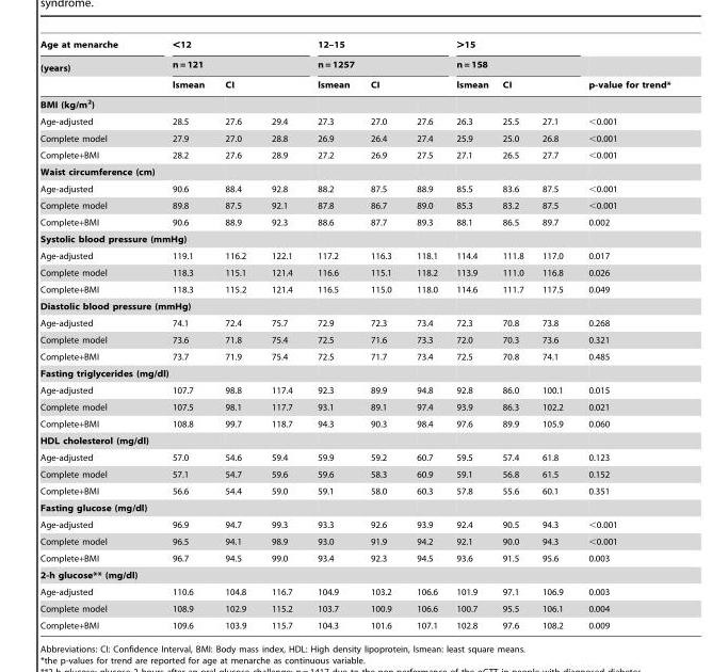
<table><thead><tr><td rowspan="3">Age at menarche (years)</td><td rowspan="2" colspan="3">&lt;12 n = 121</td><td rowspan="2" colspan="3">12–15 n = 1257</td><td rowspan="2" colspan="3">&gt;15 n = 158</td><td rowspan="4">p-value for trend*</td></tr><tr></tr><tr><td>lsmean</td><td colspan="2">CI</td><td rowspan="2">lsmean</td><td colspan="2">CI</td><td rowspan="2">lsmean</td><td colspan="2">CI</td></tr><tr><td colspan="2">BMI (kg/m<sup>2</sup>)</td><td></td><td></td><td></td><td></td><td></td><td></td></tr></thead><tbody><tr><td>Age-adjusted</td><td>28.5</td><td>27.6</td><td>29.4</td><td>27.3</td><td>27.0</td><td>27.6</td><td>26.3</td><td>25.5</td><td>27.1</td><td>&lt;0.001</td></tr><tr><td>Complete model</td><td>27.9</td><td>27.0</td><td>28.8</td><td>26.9</td><td>26.4</td><td>27.4</td><td>25.9</td><td>25.0</td><td>26.8</td><td>&lt;0.001</td></tr><tr><td>Complete+BMI</td><td>28.2</td><td>27.6</td><td>28.9</td><td>27.2</td><td>26.9</td><td>27.5</td><td>27.1</td><td>26.5</td><td>27.7</td><td>&lt;0.001</td></tr><tr><td colspan="11">Waist circumference (cm)</td></tr><tr><td>Age-adjusted</td><td>90.6</td><td>88.4</td><td>92.8</td><td>88.2</td><td>87.5</td><td>88.9</td><td>85.5</td><td>83.6</td><td>87.5</td><td>&lt;0.001</td></tr><tr><td>Complete model</td><td>89.8</td><td>87.5</td><td>92.1</td><td>87.8</td><td>86.7</td><td>89.0</td><td>85.3</td><td>83.2</td><td>87.5</td><td>&lt;0.001</td></tr><tr><td>Complete+BMI</td><td>90.6</td><td>88.9</td><td>92.3</td><td>88.6</td><td>87.7</td><td>89.3</td><td>88.1</td><td>86.5</td><td>89.7</td><td>0.002</td></tr><tr><td colspan="11">Systolic blood pressure (mmHg)</td></tr><tr><td>Age-adjusted</td><td>119.1</td><td>116.2</td><td>122.1</td><td>117.2</td><td>116.3</td><td>118.1</td><td>114.4</td><td>111.8</td><td>117.0</td><td>0.017</td></tr><tr><td>Complete model</td><td>118.3</td><td>115.1</td><td>121.4</td><td>116.6</td><td>115.1</td><td>118.2</td><td>113.9</td><td>111.0</td><td>116.8</td><td>0.026</td></tr><tr><td>Complete+BMI</td><td>118.3</td><td>115.2</td><td>121.4</td><td>116.5</td><td>115.0</td><td>118.0</td><td>114.6</td><td>111.7</td><td>117.5</td><td>0.049</td></tr><tr><td colspan="11">Diastolic blood pressure (mmHg)</td></tr><tr><td>Age-adjusted</td><td>74.1</td><td>72.4</td><td>75.7</td><td>72.9</td><td>72.3</td><td>73.4</td><td>72.3</td><td>70.8</td><td>73.8</td><td>0.268</td></tr><tr><td>Complete model</td><td>73.6</td><td>71.8</td><td>75.4</td><td>72.5</td><td>71.6</td><td>73.3</td><td>72.0</td><td>70.3</td><td>73.6</td><td>0.321</td></tr><tr><td>Complete+BMI</td><td>73.7</td><td>71.9</td><td>75.4</td><td>72.5</td><td>71.7</td><td>73.4</td><td>72.5</td><td>70.8</td><td>74.1</td><td>0.485</td></tr><tr><td colspan="11">Fasting triglycerides (mg/dl)</td></tr><tr><td>Age-adjusted</td><td>107.7</td><td>98.8</td><td>117.4</td><td>92.3</td><td>89.9</td><td>94.8</td><td>92.8</td><td>86.0</td><td>100.1</td><td>0.015</td></tr><tr><td>Complete model</td><td>107.5</td><td>98.1</td><td>117.7</td><td>93.1</td><td>89.1</td><td>97.4</td><td>93.9</td><td>86.3</td><td>102.2</td><td>0.021</td></tr><tr><td>Complete+BMI</td><td>108.8</td><td>99.7</td><td>118.7</td><td>94.3</td><td>90.3</td><td>98.4</td><td>97.6</td><td>89.9</td><td>105.9</td><td>0.060</td></tr><tr><td colspan="11">HDL cholesterol (mg/dl)</td></tr><tr><td>Age-adjusted</td><td>57.0</td><td>54.6</td><td>59.4</td><td>59.9</td><td>59.2</td><td>60.7</td><td>59.5</td><td>57.4</td><td>61.8</td><td>0.123</td></tr><tr><td>Complete model</td><td>57.1</td><td>54.7</td><td>59.6</td><td>59.6</td><td>58.3</td><td>60.9</td><td>59.1</td><td>56.8</td><td>61.5</td><td>0.152</td></tr><tr><td>Complete+BMI</td><td>56.6</td><td>54.4</td><td>59.0</td><td>59.1</td><td>58.0</td><td>60.3</td><td>57.8</td><td>55.6</td><td>60.1</td><td>0.351</td></tr><tr><td colspan="11">Fasting glucose (mg/dl)</td></tr><tr><td>Age-adjusted</td><td>96.9</td><td>94.7</td><td>99.3</td><td>93.3</td><td>92.6</td><td>93.9</td><td>92.4</td><td>90.5</td><td>94.3</td><td>&lt;0.001</td></tr><tr><td>Complete model</td><td>96.5</td><td>94.1</td><td>98.9</td><td>93.0</td><td>91.9</td><td>94.2</td><td>92.1</td><td>90.0</td><td>94.3</td><td>&lt;0.001</td></tr><tr><td>Complete+BMI</td><td>96.7</td><td>94.5</td><td>99.0</td><td>93.4</td><td>92.3</td><td>94.5</td><td>93.6</td><td>91.5</td><td>95.6</td><td>0.003</td></tr><tr><td colspan="11">2-h glucose** (mg/dl)</td></tr><tr><td>Age-adjusted</td><td>110.6</td><td>104.8</td><td>116.7</td><td>104.9</td><td>103.2</td><td>106.6</td><td>101.9</td><td>97.1</td><td>106.9</td><td>0.003</td></tr><tr><td>Complete model</td><td>108.9</td><td>102.9</td><td>115.2</td><td>103.7</td><td>100.9</td><td>106.6</td><td>100.7</td><td>95.5</td><td>106.1</td><td>0.004</td></tr><tr><td>Complete+BMI</td><td>109.6</td><td>103.9</td><td>115.7</td><td>104.3</td><td>101.6</td><td>107.1</td><td>102.8</td><td>97.6</td><td>108.2</td><td>0.009</td></tr></tbody></table>